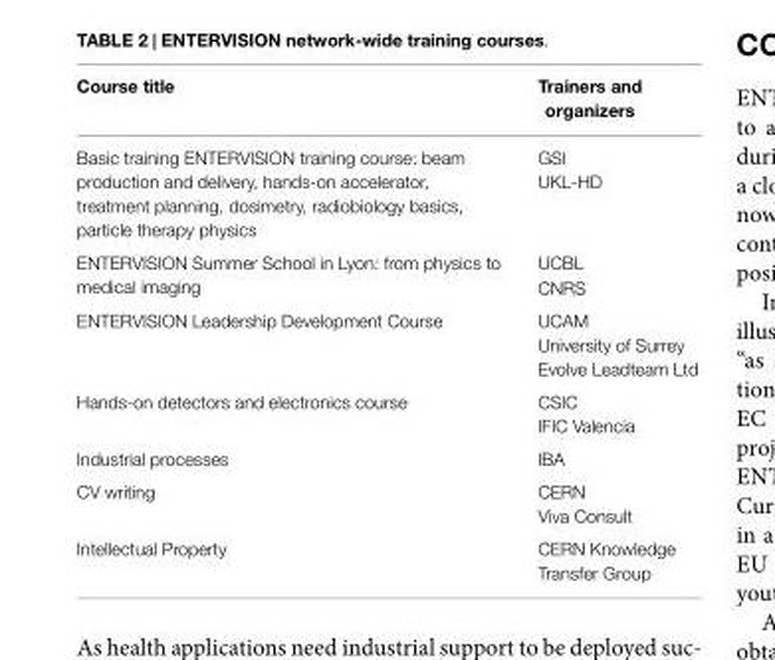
<table><thead><tr><td>Course title</td><td>Trainers and organizers</td></tr></thead><tbody><tr><td>Basic training ENTERVISION training course: beam production and delivery, hands-on accelerator, treatment planning, dosimetry, radiobiology basics, particle therapy physics</td><td>GSI UKL-HD</td></tr><tr><td>ENTERVISION Summer School in Lyon: from physics to medical imaging</td><td>UCBL CNRS</td></tr><tr><td>ENTERVISION Leadership Development Course</td><td>UCAM University of Surrey Evolve Leadteam Ltd</td></tr><tr><td>Hands-on detectors and electronics course</td><td>CSIC IFIC Valencia</td></tr><tr><td>Industrial processes</td><td>IBA</td></tr><tr><td>CV writing</td><td>CERN Viva Consult</td></tr><tr><td>Intellectual Property</td><td>CERN Knowledge Transfer Group</td></tr></tbody></table>